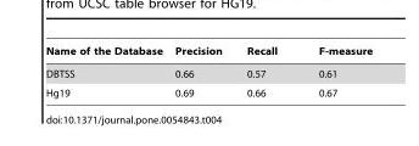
<table><thead><tr><td>Name of the Database</td><td>Precision</td><td>Recall</td><td>F-measure</td></tr></thead><tbody><tr><td>DBTSS</td><td>0.66</td><td>0.57</td><td>0.61</td></tr><tr><td>Hg19</td><td>0.69</td><td>0.66</td><td>0.67</td></tr></tbody></table>